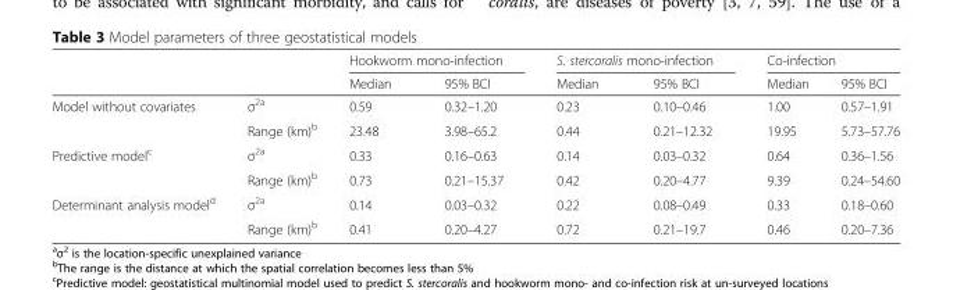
<table><thead><tr><td rowspan="2"></td><td rowspan="2"></td><td colspan="2">Hookworm mono-infection</td><td colspan="2">S. stercoralis mono-infection</td><td colspan="2">Co-infection</td></tr><tr><td>Median</td><td>95% BCI</td><td>Median</td><td>95% BCI</td><td>Median</td><td>95% BCI</td></tr></thead><tbody><tr><td rowspan="2">Model without covariates</td><td>σ<sup>2a</sup></td><td>0.59</td><td>0.32–1.20</td><td>0.23</td><td>0.10–0.46</td><td>1.00</td><td>0.57–1.91</td></tr><tr><td>Range (km)<sup>b</sup></td><td>23.48</td><td>3.98–65.2</td><td>0.44</td><td>0.21–12.32</td><td>19.95</td><td>5.73–57.76</td></tr><tr><td rowspan="2">Predictive model<sup>c</sup></td><td>σ<sup>2a</sup></td><td>0.33</td><td>0.16–0.63</td><td>0.14</td><td>0.03–0.32</td><td>0.64</td><td>0.36–1.56</td></tr><tr><td>Range (km)<sup>b</sup></td><td>0.73</td><td>0.21–15.37</td><td>0.42</td><td>0.20–4.77</td><td>9.39</td><td>0.24–54.60</td></tr><tr><td rowspan="2">Determinant analysis model<sup>d</sup></td><td>σ<sup>2a</sup></td><td>0.14</td><td>0.03–0.32</td><td>0.22</td><td>0.08–0.49</td><td>0.33</td><td>0.18–0.60</td></tr><tr><td>Range (km)<sup>b</sup></td><td>0.41</td><td>0.20–4.27</td><td>0.72</td><td>0.21–19.7</td><td>0.46</td><td>0.20–7.36</td></tr></tbody></table>